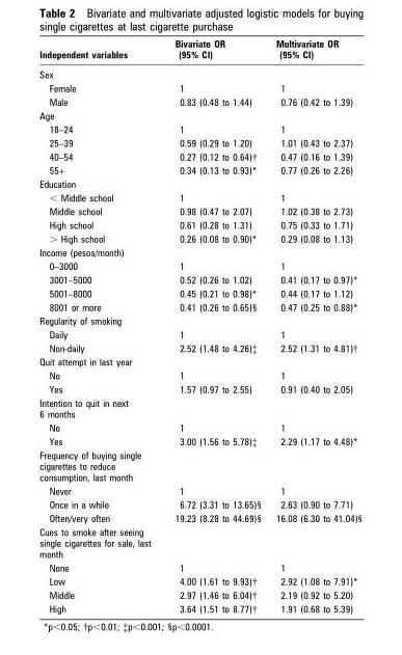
<table><thead><tr><td>Independent variables</td><td>Bivariate OR (95% CI)</td><td>Multivariate OR (95% CI)</td></tr></thead><tbody><tr><td colspan="3">Sex</td></tr><tr><td>Female</td><td>1</td><td>1</td></tr><tr><td>Male</td><td>0.83 (0.48 to 1.44)</td><td>0.76 (0.42 to 1.39)</td></tr><tr><td colspan="3">Age</td></tr><tr><td>18–24</td><td>1</td><td>1</td></tr><tr><td>25–39</td><td>0.59 (0.29 to 1.20)</td><td>1.01 (0.43 to 2.37)</td></tr><tr><td>40–54</td><td>0.27 (0.12 to 0.64)†</td><td>0.47 (0.16 to 1.39)</td></tr><tr><td>55+</td><td>0.34 (0.13 to 0.93)*</td><td>0.77 (0.26 to 2.26)</td></tr><tr><td colspan="3">Education</td></tr><tr><td>&lt; Middle school</td><td>1</td><td>1</td></tr><tr><td>Middle school</td><td>0.98 (0.47 to 2.07)</td><td>1.02 (0.38 to 2.73)</td></tr><tr><td>High school</td><td>0.61 (0.28 to 1.31)</td><td>0.75 (0.33 to 1.71)</td></tr><tr><td>&gt; High school</td><td>0.26 (0.08 to 0.90)*</td><td>0.29 (0.08 to 1.13)</td></tr><tr><td colspan="3">Income (pesos/month)</td></tr><tr><td>0–3000</td><td>1</td><td>1</td></tr><tr><td>3001–5000</td><td>0.52 (0.26 to 1.02)</td><td>0.41 (0.17 to 0.97)*</td></tr><tr><td>5001–8000</td><td>0.45 (0.21 to 0.98)*</td><td>0.44 (0.17 to 1.12)</td></tr><tr><td>8001 or more</td><td>0.41 (0.26 to 0.65)§</td><td>0.47 (0.25 to 0.88)*</td></tr><tr><td colspan="3">Regularity of smoking</td></tr><tr><td>Daily</td><td>1</td><td>1</td></tr><tr><td>Non-daily</td><td>2.52 (1.48 to 4.26)‡</td><td>2.52 (1.31 to 4.81)†</td></tr><tr><td colspan="3">Quit attempt in last year</td></tr><tr><td>No</td><td>1</td><td>1</td></tr><tr><td>Yes</td><td>1.57 (0.97 to 2.55)</td><td>0.91 (0.40 to 2.05)</td></tr><tr><td colspan="3">Intention to quit in next 6 months</td></tr><tr><td>No</td><td>1</td><td>1</td></tr><tr><td>Yes</td><td>3.00 (1.56 to 5.78)‡</td><td>2.29 (1.17 to 4.48)*</td></tr><tr><td colspan="3">Frequency of buying single cigarettes to reduce consumption, last month</td></tr><tr><td>Never</td><td>1</td><td>1</td></tr><tr><td>Once in a while</td><td>6.72 (3.31 to 13.65)§</td><td>2.63 (0.90 to 7.71)</td></tr><tr><td>Often/very often</td><td>19.23 (8.28 to 44.69)§</td><td>16.08 (6.30 to 41.04)§</td></tr><tr><td colspan="3">Cues to smoke after seeing single cigarettes for sale, last month</td></tr><tr><td>None</td><td>1</td><td>1</td></tr><tr><td>Low</td><td>4.00 (1.61 to 9.93)†</td><td>2.92 (1.08 to 7.91)*</td></tr><tr><td>Middle</td><td>2.97 (1.46 to 6.04)†</td><td>2.19 (0.92 to 5.20)</td></tr><tr><td>High</td><td>3.64 (1.51 to 8.77)†</td><td>1.91 (0.68 to 5.39)</td></tr></tbody></table>